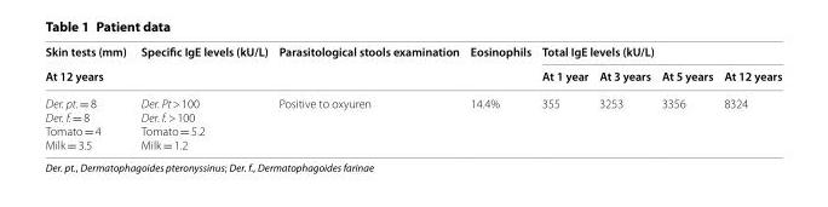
<table><thead><tr><td>Skin tests (mm)</td><td>Specific IgE levels (kU/L)</td><td>Parasitological stools examination</td><td>Eosinophils</td><td colspan="4">Total IgE levels (kU/L)</td></tr><tr><td colspan="4">At 12 years</td><td>At 1 year</td><td>At 3 years</td><td>At 5 years</td><td>At 12 years</td></tr></thead><tbody><tr><td>Der. pt. = 8 Der. f. = 8 Tomato = 4 Milk = 3.5</td><td>Der. Pt &gt; 100 Der. f. &gt; 100 Tomato = 5.2 Milk = 1.2</td><td>Positive to oxyuren</td><td>14.4%</td><td>355</td><td>3253</td><td>3356</td><td>8324</td></tr></tbody></table>